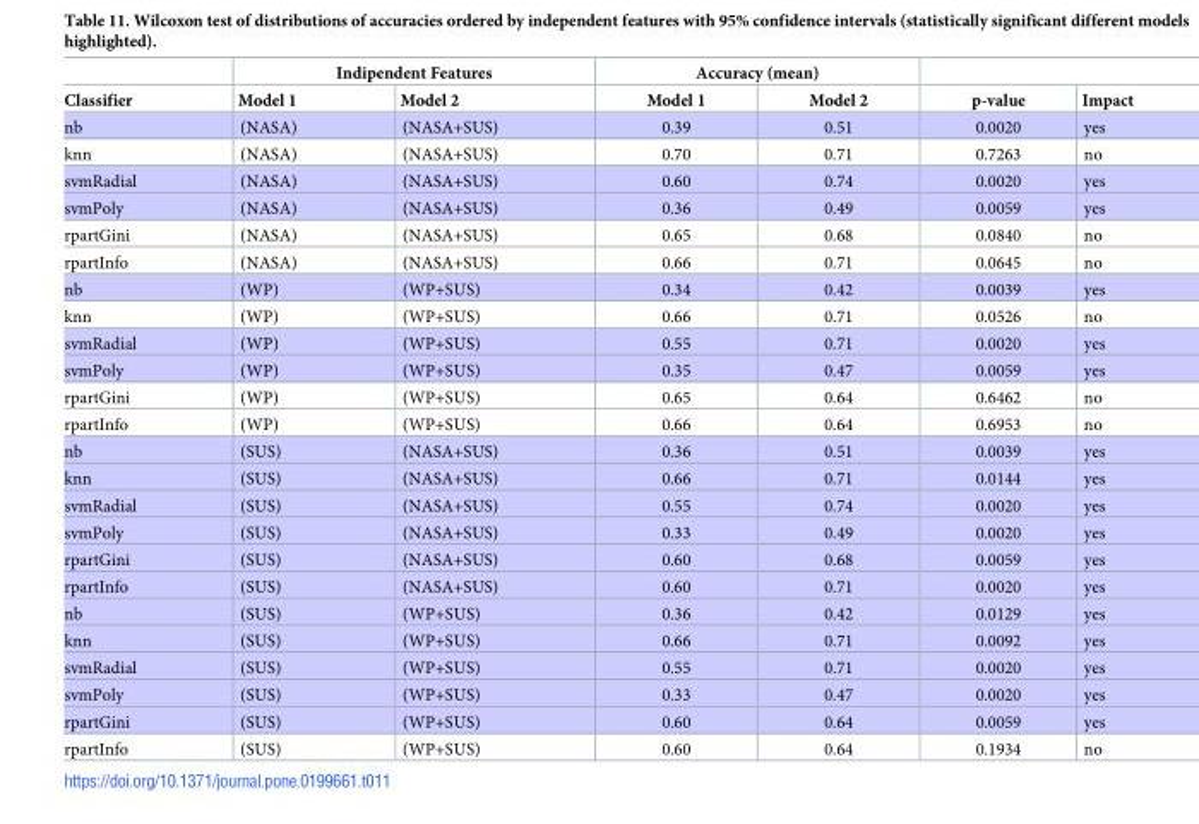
<table><thead><tr><td rowspan="2">Classifier</td><td colspan="2">Indipendent Features</td><td colspan="2">Accuracy (mean)</td><td rowspan="2">p-value</td><td rowspan="2">Impact</td></tr><tr><td>Model 1</td><td>Model 2</td><td>Model 1</td><td>Model 2</td></tr></thead><tbody><tr><td>nb</td><td>(NASA)</td><td>(NASA+SUS)</td><td>0.39</td><td>0.51</td><td>0.0020</td><td>yes</td></tr><tr><td>knn</td><td>(NASA)</td><td>(NASA+SUS)</td><td>0.70</td><td>0.71</td><td>0.7263</td><td>no</td></tr><tr><td>svmRadial</td><td>(NASA)</td><td>(NASA+SUS)</td><td>0.60</td><td>0.74</td><td>0.0020</td><td>yes</td></tr><tr><td>svmPoly</td><td>(NASA)</td><td>(NASA+SUS)</td><td>0.36</td><td>0.49</td><td>0.0059</td><td>yes</td></tr><tr><td>rpartGini</td><td>(NASA)</td><td>(NASA+SUS)</td><td>0.65</td><td>0.68</td><td>0.0840</td><td>no</td></tr><tr><td>rpartInfo</td><td>(NASA)</td><td>(NASA+SUS)</td><td>0.66</td><td>0.71</td><td>0.0645</td><td>no</td></tr><tr><td>nb</td><td>(WP)</td><td>(WP+SUS)</td><td>0.34</td><td>0.42</td><td>0.0039</td><td>yes</td></tr><tr><td>knn</td><td>(WP)</td><td>(WP+SUS)</td><td>0.66</td><td>0.71</td><td>0.0526</td><td>no</td></tr><tr><td>svmRadial</td><td>(WP)</td><td>(WP+SUS)</td><td>0.55</td><td>0.71</td><td>0.0020</td><td>yes</td></tr><tr><td>svmPoly</td><td>(WP)</td><td>(WP+SUS)</td><td>0.35</td><td>0.47</td><td>0.0059</td><td>yes</td></tr><tr><td>rpartGini</td><td>(WP)</td><td>(WP+SUS)</td><td>0.65</td><td>0.64</td><td>0.6462</td><td>no</td></tr><tr><td>rpartInfo</td><td>(WP)</td><td>(WP+SUS)</td><td>0.66</td><td>0.64</td><td>0.6953</td><td>no</td></tr><tr><td>nb</td><td>(SUS)</td><td>(NASA+SUS)</td><td>0.36</td><td>0.51</td><td>0.0039</td><td>yes</td></tr><tr><td>knn</td><td>(SUS)</td><td>(NASA+SUS)</td><td>0.66</td><td>0.71</td><td>0.0144</td><td>yes</td></tr><tr><td>svmRadial</td><td>(SUS)</td><td>(NASA+SUS)</td><td>0.55</td><td>0.74</td><td>0.0020</td><td>yes</td></tr><tr><td>svmPoly</td><td>(SUS)</td><td>(NASA+SUS)</td><td>0.33</td><td>0.49</td><td>0.0020</td><td>yes</td></tr><tr><td>rpartGini</td><td>(SUS)</td><td>(NASA+SUS)</td><td>0.60</td><td>0.68</td><td>0.0059</td><td>yes</td></tr><tr><td>rpartInfo</td><td>(SUS)</td><td>(NASA+SUS)</td><td>0.60</td><td>0.71</td><td>0.0020</td><td>yes</td></tr><tr><td>nb</td><td>(SUS)</td><td>(WP+SUS)</td><td>0.36</td><td>0.42</td><td>0.0129</td><td>yes</td></tr><tr><td>knn</td><td>(SUS)</td><td>(WP+SUS)</td><td>0.66</td><td>0.71</td><td>0.0092</td><td>yes</td></tr><tr><td>svmRadial</td><td>(SUS)</td><td>(WP+SUS)</td><td>0.55</td><td>0.71</td><td>0.0020</td><td>yes</td></tr><tr><td>svmPoly</td><td>(SUS)</td><td>(WP+SUS)</td><td>0.33</td><td>0.47</td><td>0.0020</td><td>yes</td></tr><tr><td>rpartGini</td><td>(SUS)</td><td>(WP+SUS)</td><td>0.60</td><td>0.64</td><td>0.0059</td><td>yes</td></tr><tr><td>rpartInfo</td><td>(SUS)</td><td>(WP+SUS)</td><td>0.60</td><td>0.64</td><td>0.1934</td><td>no</td></tr></tbody></table>